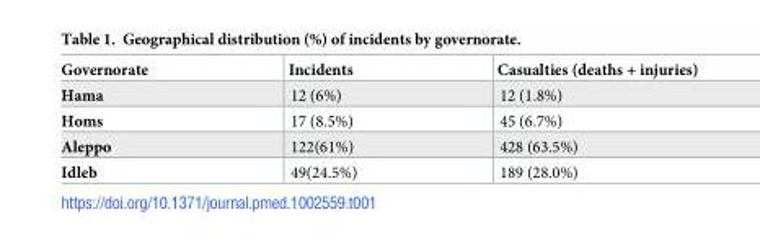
<table><thead><tr><td>Governorate</td><td>Incidents</td><td>Casualties (deaths + injuries)</td></tr></thead><tbody><tr><td>Hama</td><td>12 (6%)</td><td>12 (1.8%)</td></tr><tr><td>Homs</td><td>17 (8.5%)</td><td>45 (6.7%)</td></tr><tr><td>Aleppo</td><td>122(61%)</td><td>428 (63.5%)</td></tr><tr><td>Idleb</td><td>49(24.5%)</td><td>189 (28.0%)</td></tr></tbody></table>